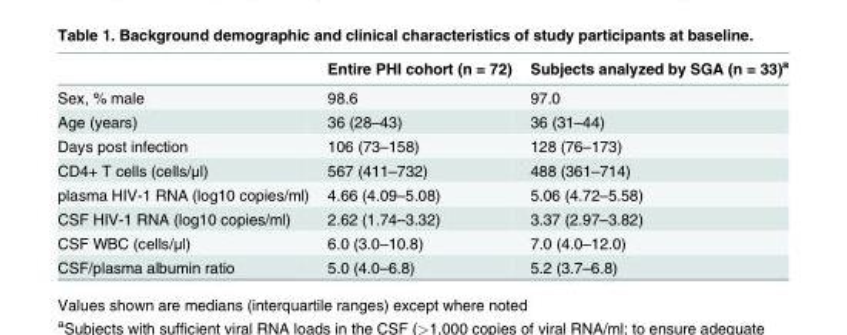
<table><thead><tr><td></td><td>Entire PHI cohort (n = 72)</td><td>Subjects analyzed by SGA (n = 33)<sup>a</sup></td></tr></thead><tbody><tr><td>Sex, % male</td><td>98.6</td><td>97.0</td></tr><tr><td>Age (years)</td><td>36 (28–43)</td><td>36 (31–44)</td></tr><tr><td>Days post infection</td><td>106 (73–158)</td><td>128 (76–173)</td></tr><tr><td>CD4+ T cells (cells/μl)</td><td>567 (411–732)</td><td>488 (361–714)</td></tr><tr><td>plasma HIV-1 RNA (log10 copies/ml)</td><td>4.66 (4.09–5.08)</td><td>5.06 (4.72–5.58)</td></tr><tr><td>CSF HIV-1 RNA (log10 copies/ml)</td><td>2.62 (1.74–3.32)</td><td>3.37 (2.97–3.82)</td></tr><tr><td>CSF WBC (cells/μl)</td><td>6.0 (3.0–10.8)</td><td>7.0 (4.0–12.0)</td></tr><tr><td>CSF/plasma albumin ratio</td><td>5.0 (4.0–6.8)</td><td>5.2 (3.7–6.8)</td></tr></tbody></table>